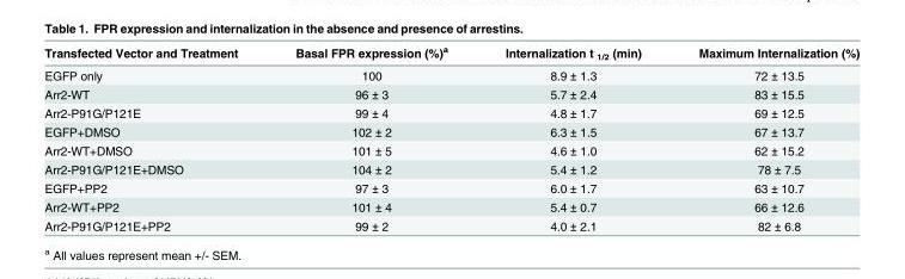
<table><thead><tr><td>Transfected Vector and Treatment</td><td>Basal FPR expression (%)<sup>a</sup></td><td>Internalization t <sub>1/2</sub> (min)</td><td>Maximum Internalization (%)</td></tr></thead><tbody><tr><td>EGFP only</td><td>100</td><td>8.9 ± 1.3</td><td>72 ± 13.5</td></tr><tr><td>Arr2-WT</td><td>96 ± 3</td><td>5.7 ± 2.4</td><td>83 ± 15.5</td></tr><tr><td>Arr2-P91G/P121E</td><td>99 ± 4</td><td>4.8 ± 1.7</td><td>69 ± 12.5</td></tr><tr><td>EGFP+DMSO</td><td>102 ± 2</td><td>6.3 ± 1.5</td><td>67 ± 13.7</td></tr><tr><td>Arr2-WT+DMSO</td><td>101 ± 5</td><td>4.6 ± 1.0</td><td>62 ± 15.2</td></tr><tr><td>Arr2-P91G/P121E+DMSO</td><td>104 ± 2</td><td>5.4 ± 1.2</td><td>78 ± 7.5</td></tr><tr><td>EGFP+PP2</td><td>97 ± 3</td><td>6.0 ± 1.7</td><td>63 ± 10.7</td></tr><tr><td>Arr2-WT+PP2</td><td>101 ± 4</td><td>5.4 ± 0.7</td><td>66 ± 12.6</td></tr><tr><td>Arr2-P91G/P121E+PP2</td><td>99 ± 2</td><td>4.0 ± 2.1</td><td>82 ± 6.8</td></tr></tbody></table>